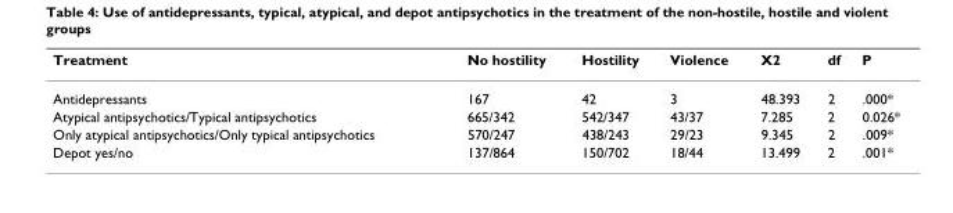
<table><thead><tr><td>Treatment</td><td>No hostility</td><td>Hostility</td><td>Violence</td><td>X2</td><td>df</td><td>P</td></tr></thead><tbody><tr><td>Antidepressants</td><td>167</td><td>42</td><td>3</td><td>48.393</td><td>2</td><td>.000*</td></tr><tr><td>Atypical antipsychotics/Typical antipsychotics</td><td>665/342</td><td>542/347</td><td>43/37</td><td>7.285</td><td>2</td><td>0.026*</td></tr><tr><td>Only atypical antipsychotics/Only typical antipsychotics</td><td>570/247</td><td>438/243</td><td>29/23</td><td>9.345</td><td>2</td><td>.009*</td></tr><tr><td>Depot yes/no</td><td>137/864</td><td>150/702</td><td>18/44</td><td>13.499</td><td>2</td><td>.001*</td></tr></tbody></table>